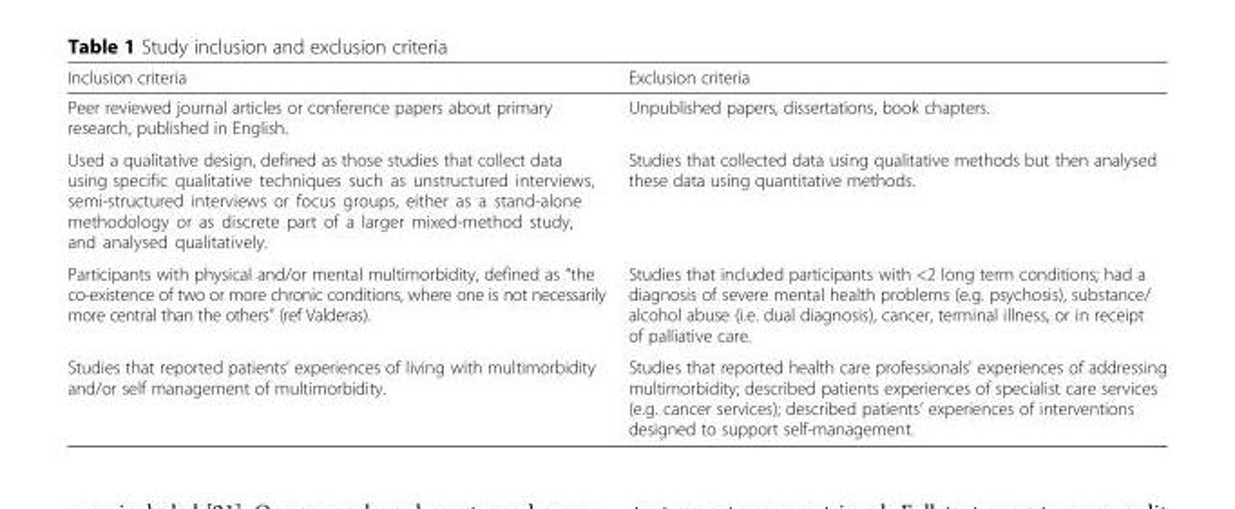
<table><thead><tr><td>Inclusion criteria</td><td>Exclusion criteria</td></tr></thead><tbody><tr><td>Peer reviewed journal articles or conference papers about primary research, published in English.</td><td>Unpublished papers, dissertations, book chapters.</td></tr><tr><td>Used a qualitative design, defined as those studies that collect data using specific qualitative techniques such as unstructured interviews, semi-structured interviews or focus groups, either as a stand-alone methodology or as discrete part of a larger mixed-method study, and analysed qualitatively.</td><td>Studies that collected data using qualitative methods but then analysed these data using quantitative methods.</td></tr><tr><td>Participants with physical and/or mental multimorbidity, defined as “the co-existence of two or more chronic conditions, where one is not necessarily more central than the others” (ref Valderas).</td><td>Studies that included participants with &lt;2 long term conditions; had a diagnosis of severe mental health problems (e.g. psychosis), substance/ alcohol abuse (i.e. dual diagnosis), cancer, terminal illness, or in receipt of palliative care.</td></tr><tr><td>Studies that reported patients’ experiences of living with multimorbidity and/or self management of multimorbidity.</td><td>Studies that reported health care professionals&#x27; experiences of addressing multimorbidity; described patients experiences of specialist care services (e.g. cancer services); described patients’ experiences of interventions designed to support self-management.</td></tr></tbody></table>